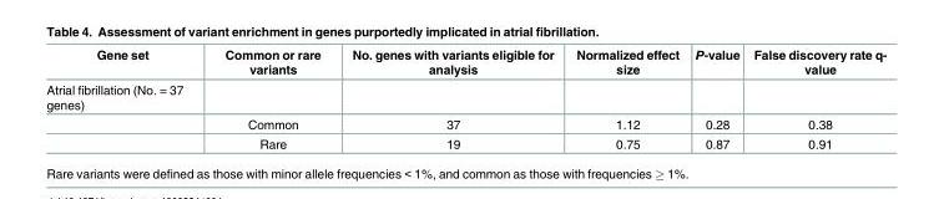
<table><thead><tr><td>Gene set</td><td>Common or rare variants</td><td>No. genes with variants eligible for analysis</td><td>Normalized effect size</td><td>P-value</td><td>False discovery rate q- value</td></tr></thead><tbody><tr><td colspan="6">Atrial fibrillation (No. = 37 genes)</td></tr><tr><td></td><td>Common</td><td>37</td><td>1.12</td><td>0.28</td><td>0.38</td></tr><tr><td></td><td>Rare</td><td>19</td><td>0.75</td><td>0.87</td><td>0.91</td></tr></tbody></table>